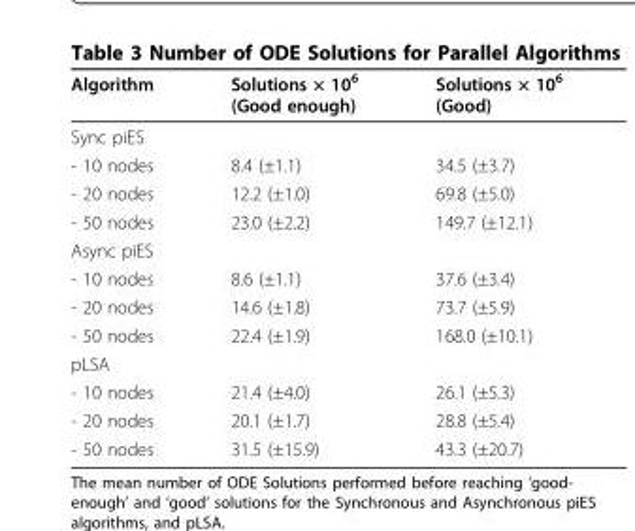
<table><thead><tr><td>Algorithm</td><td>Solutions × 10<sup>6</sup> (Good enough)</td><td>Solutions × 10<sup>6</sup> (Good)</td></tr></thead><tbody><tr><td colspan="3">Sync piES</td></tr><tr><td>- 10 nodes</td><td>8.4 (±1.1)</td><td>34.5 (±3.7)</td></tr><tr><td>- 20 nodes</td><td>12.2 (±1.0)</td><td>69.8 (±5.0)</td></tr><tr><td>- 50 nodes</td><td>23.0 (±2.2)</td><td>149.7 (±12.1)</td></tr><tr><td colspan="3">Async piES</td></tr><tr><td>- 10 nodes</td><td>8.6 (±1.1)</td><td>37.6 (±3.4)</td></tr><tr><td>- 20 nodes</td><td>14.6 (±1.8)</td><td>73.7 (±5.9)</td></tr><tr><td>- 50 nodes</td><td>22.4 (±1.9)</td><td>168.0 (±10.1)</td></tr><tr><td colspan="3">pLSA</td></tr><tr><td>- 10 nodes</td><td>21.4 (±4.0)</td><td>26.1 (±5.3)</td></tr><tr><td>- 20 nodes</td><td>20.1 (±1.7)</td><td>28.8 (±5.4)</td></tr><tr><td>- 50 nodes</td><td>31.5 (±15.9)</td><td>43.3 (±20.7)</td></tr></tbody></table>